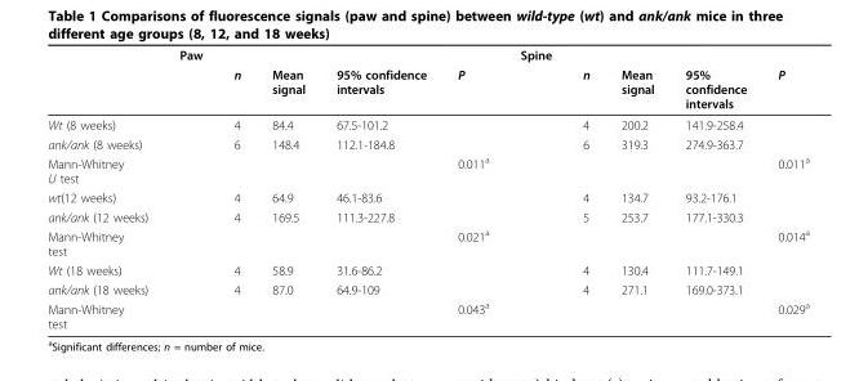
<table><thead><tr><td rowspan="2"></td><td rowspan="2">Paw</td><td rowspan="2">n</td><td rowspan="2">Mean signal</td><td rowspan="2">95% confidence intervals</td><td rowspan="2">P</td><td rowspan="2">Spine</td><td rowspan="2">n</td><td rowspan="2">Mean signal</td><td rowspan="2">95% confidence intervals</td><td rowspan="2">P</td></tr><tr></tr></thead><tbody><tr><td>Wt (8 weeks)</td><td></td><td>4</td><td>84.4</td><td>67.5-101.2</td><td></td><td></td><td>4</td><td>200.2</td><td>141.9-258.4</td><td></td></tr><tr><td>ank/ank (8 weeks)</td><td></td><td>6</td><td>148.4</td><td>112.1-184.8</td><td></td><td></td><td>6</td><td>319.3</td><td>274.9-363.7</td><td></td></tr><tr><td>Mann-Whitney U test</td><td></td><td></td><td></td><td></td><td>0.011<sup>a</sup></td><td></td><td></td><td></td><td></td><td>0.011<sup>a</sup></td></tr><tr><td>wt(12 weeks)</td><td></td><td>4</td><td>64.9</td><td>46.1-83.6</td><td></td><td></td><td>4</td><td>134.7</td><td>93.2-176.1</td><td></td></tr><tr><td>ank/ank (12 weeks)</td><td></td><td>4</td><td>169.5</td><td>111.3-227.8</td><td></td><td></td><td>5</td><td>253.7</td><td>177.1-330.3</td><td></td></tr><tr><td>Mann-Whitney test</td><td></td><td></td><td></td><td></td><td>0.021<sup>a</sup></td><td></td><td></td><td></td><td></td><td>0.014<sup>a</sup></td></tr><tr><td>Wt (18 weeks)</td><td></td><td>4</td><td>58.9</td><td>31.6-86.2</td><td></td><td></td><td>4</td><td>130.4</td><td>111.7-149.1</td><td></td></tr><tr><td>ank/ank (18 weeks)</td><td></td><td>4</td><td>87.0</td><td>64.9-109</td><td></td><td></td><td>4</td><td>271.1</td><td>169.0-373.1</td><td></td></tr><tr><td>Mann-Whitney test</td><td></td><td></td><td></td><td></td><td>0.043<sup>a</sup></td><td></td><td></td><td></td><td></td><td>0.029<sup>a</sup></td></tr></tbody></table>